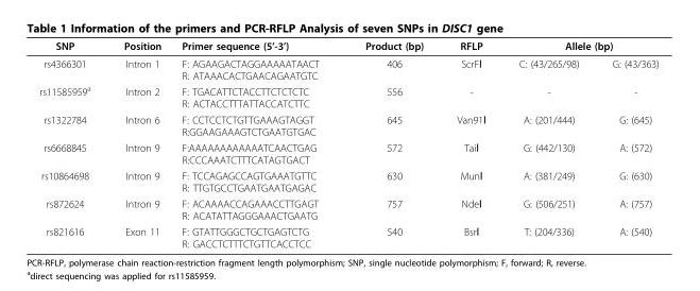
<table><thead><tr><td rowspan="2">SNP rs4366301</td><td rowspan="2">Position Intron 1</td><td rowspan="2">Primer sequence (5’-3’) F: AGAAGACTAGGAAAAATAACT R: ATAAACACTGAACAGAATGTC</td><td rowspan="2">Product (bp) 406</td><td rowspan="2">RFLP ScrFⅠ</td><td colspan="2">Allele (bp)</td></tr><tr><td>C: (43/265/98)</td><td>G: (43/363)</td></tr></thead><tbody><tr><td>rs11585959<sup>a</sup></td><td>Intron 2</td><td>F: TGACATTCTACCTTCTCTCTC R: ACTACCTTTATTACCATCTTC</td><td>556</td><td>-</td><td>-</td><td>-</td></tr><tr><td>rs1322784</td><td>Intron 6</td><td>F: CCTCCTCTGTTGAAAGTAGGT R:GGAAGAAAGTCTGAATGTGAC</td><td>645</td><td>Van91Ⅰ</td><td>A: (201/444)</td><td>G: (645)</td></tr><tr><td>rs6668845</td><td>Intron 9</td><td>F:AAAAAAAAAAAATCAACTGAG R:CCCAAATCTTTCATAGTGACT</td><td>572</td><td>TaiⅠ</td><td>G: (442/130)</td><td>A: (572)</td></tr><tr><td>rs10864698</td><td>Intron 9</td><td>F: TCCAGAGCCAGTGAAATGTTC R: TTGTGCCTGAATGAATGAGAC</td><td>630</td><td>MunⅠ</td><td>A: (381/249)</td><td>G: (630)</td></tr><tr><td>rs872624</td><td>Intron 9</td><td>F: ACAAAACCAGAAACCTTGAGT R: ACATATTAGGGAAACTGAATG</td><td>757</td><td>NdeⅠ</td><td>G: (506/251)</td><td>A: (757)</td></tr><tr><td>rs821616</td><td>Exon 11</td><td>F: GTATTGGGCTGCTGAGTCTG R: GACCTCTTTCTGTTCACCTCC</td><td>540</td><td>BsrⅠ</td><td>T: (204/336)</td><td>A: (540)</td></tr></tbody></table>